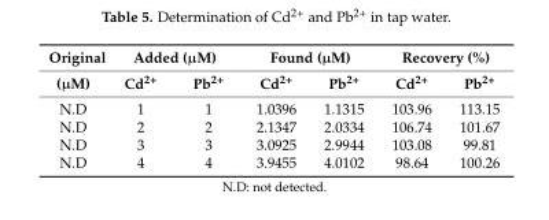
<table><thead><tr><td rowspan="2">Original (µM)</td><td colspan="2">Added (µM)</td><td colspan="2">Found (µM)</td><td colspan="2">Recovery (%)</td></tr><tr><td>Cd2+</td><td>Pb2+</td><td>Cd2+</td><td>Pb2+</td><td>Cd2+</td><td>Pb2+</td></tr></thead><tbody><tr><td>N.D</td><td>1</td><td>1</td><td>1.0396</td><td>1.1315</td><td>103.96</td><td>113.15</td></tr><tr><td>N.D</td><td>2</td><td>2</td><td>2.1347</td><td>2.0334</td><td>106.74</td><td>101.67</td></tr><tr><td>N.D</td><td>3</td><td>3</td><td>3.0925</td><td>2.9944</td><td>103.08</td><td>99.81</td></tr><tr><td>N.D</td><td>4</td><td>4</td><td>3.9455</td><td>4.0102</td><td>98.64</td><td>100.26</td></tr></tbody></table>